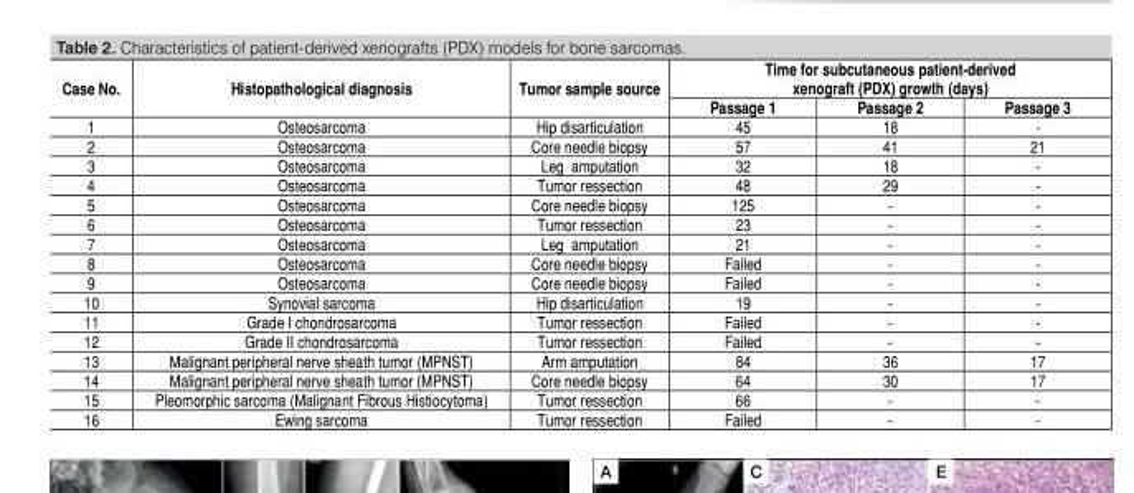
<table><thead><tr><td rowspan="2">Case No.</td><td rowspan="2">Histopathological diagnosis</td><td rowspan="2">Tumor sample source</td><td colspan="3">Time for subcutaneous patient-derived xenograft (PDX) growth (days)</td></tr><tr><td>Passage 1</td><td>Passage 2</td><td>Passage 3</td></tr></thead><tbody><tr><td>1</td><td>Osteosarcoma</td><td>Hip disarticulation</td><td>45</td><td>18</td><td>-</td></tr><tr><td>2</td><td>Osteosarcoma</td><td>Core needle biopsy</td><td>57</td><td>41</td><td>21</td></tr><tr><td>3</td><td>Osteosarcoma</td><td>Leg amputation</td><td>32</td><td>18</td><td>-</td></tr><tr><td>4</td><td>Osteosarcoma</td><td>Tumor ressection</td><td>48</td><td>29</td><td>-</td></tr><tr><td>5</td><td>Osteosarcoma</td><td>Core needle biopsy</td><td>125</td><td>-</td><td>-</td></tr><tr><td>6</td><td>Osteosarcoma</td><td>Tumor ressection</td><td>23</td><td>-</td><td>-</td></tr><tr><td>7</td><td>Osteosarcoma</td><td>Leg amputation</td><td>21</td><td>-</td><td>-</td></tr><tr><td>8</td><td>Osteosarcoma</td><td>Core needle biopsy</td><td>Failed</td><td>-</td><td>-</td></tr><tr><td>9</td><td>Osteosarcoma</td><td>Core needle biopsy</td><td>Failed</td><td>-</td><td>-</td></tr><tr><td>10</td><td>Synovial sarcoma</td><td>Hip disarticulation</td><td>19</td><td>-</td><td>-</td></tr><tr><td>11</td><td>Grade I chondrosarcoma</td><td>Tumor ressection</td><td>Failed</td><td>-</td><td>-</td></tr><tr><td>12</td><td>Grade II chondrosarcoma</td><td>Tumor ressection</td><td>Failed</td><td>-</td><td>-</td></tr><tr><td>13</td><td>Malignant peripheral nerve sheath tumor (MPNST)</td><td>Arm amputation</td><td>84</td><td>36</td><td>17</td></tr><tr><td>14</td><td>Malignant peripheral nerve sheath tumor (MPNST)</td><td>Core needle biopsy</td><td>64</td><td>30</td><td>17</td></tr><tr><td>15</td><td>Pleomorphic sarcoma (Malignant Fibrous Histiocytoma)</td><td>Tumor ressection</td><td>66</td><td>-</td><td>-</td></tr><tr><td>16</td><td>Ewing sarcoma</td><td>Tumor ressection</td><td>Failed</td><td>-</td><td>-</td></tr></tbody></table>